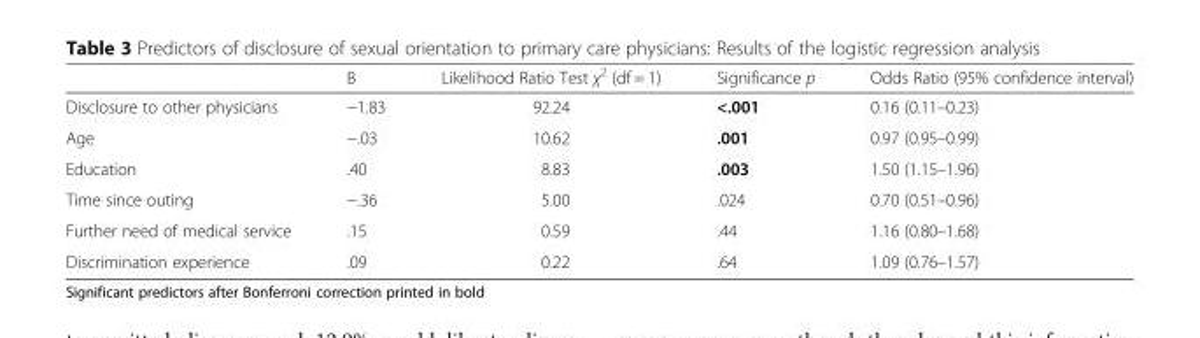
<table><thead><tr><td></td><td>B</td><td>Likelihood Ratio Test χ<sup>2</sup> (df = 1)</td><td>Significance p</td><td>Odds Ratio (95% confidence interval)</td></tr></thead><tbody><tr><td>Disclosure to other physicians</td><td>−1.83</td><td>92.24</td><td>&lt;.001</td><td>0.16 (0.11–0.23)</td></tr><tr><td>Age</td><td>−.03</td><td>10.62</td><td>.001</td><td>0.97 (0.95–0.99)</td></tr><tr><td>Education</td><td>.40</td><td>8.83</td><td>.003</td><td>1.50 (1.15–1.96)</td></tr><tr><td>Time since outing</td><td>−.36</td><td>5.00</td><td>.024</td><td>0.70 (0.51–0.96)</td></tr><tr><td>Further need of medical service</td><td>.15</td><td>0.59</td><td>.44</td><td>1.16 (0.80–1.68)</td></tr><tr><td>Discrimination experience</td><td>.09</td><td>0.22</td><td>.64</td><td>1.09 (0.76–1.57)</td></tr></tbody></table>